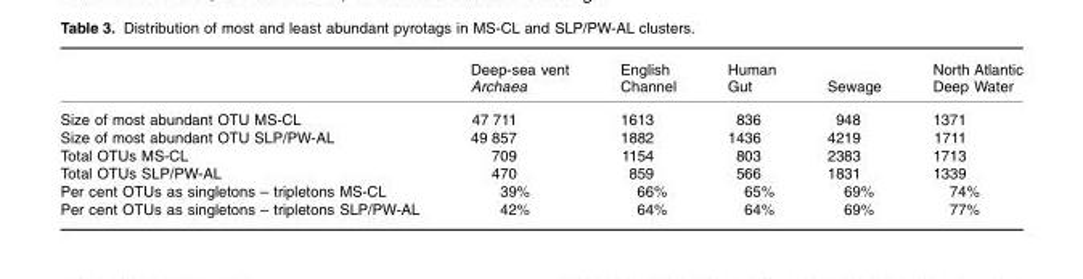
<table><thead><tr><td></td><td>Deep-sea vent Archaea</td><td>English Channel</td><td>Human Gut</td><td>Sewage</td><td>North Atlantic Deep Water</td></tr></thead><tbody><tr><td>Size of most abundant OTU MS-CL</td><td>47 711</td><td>1613</td><td>836</td><td>948</td><td>1371</td></tr><tr><td>Size of most abundant OTU SLP/PW-AL</td><td>49 857</td><td>1882</td><td>1436</td><td>4219</td><td>1711</td></tr><tr><td>Total OTUs MS-CL</td><td>709</td><td>1154</td><td>803</td><td>2383</td><td>1713</td></tr><tr><td>Total OTUs SLP/PW-AL</td><td>470</td><td>859</td><td>566</td><td>1831</td><td>1339</td></tr><tr><td>Per cent OTUs as singletons – tripletons MS-CL</td><td>39%</td><td>66%</td><td>65%</td><td>69%</td><td>74%</td></tr><tr><td>Per cent OTUs as singletons – tripletons SLP/PW-AL</td><td>42%</td><td>64%</td><td>64%</td><td>69%</td><td>77%</td></tr></tbody></table>